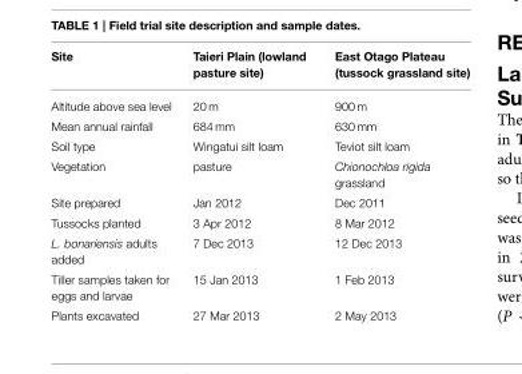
<table><thead><tr><td>Site</td><td>Taieri Plain (lowland pasture site)</td><td>East Otago Plateau (tussock grassland site)</td></tr></thead><tbody><tr><td>Altitude above sea level</td><td>20 m</td><td>900 m</td></tr><tr><td>Mean annual rainfall</td><td>684 mm</td><td>630 mm</td></tr><tr><td>Soil type</td><td>Wingatui silt loam</td><td>Teviot silt loam</td></tr><tr><td>Vegetation</td><td>pasture</td><td>Chionochloa rigida grassland</td></tr><tr><td>Site prepared</td><td>Jan 2012</td><td>Dec 2011</td></tr><tr><td>Tussocks planted</td><td>3 Apr 2012</td><td>8 Mar 2012</td></tr><tr><td>L. bonariensis adults added</td><td>7 Dec 2013</td><td>12 Dec 2013</td></tr><tr><td>Tiller samples taken for eggs and larvae</td><td>15 Jan 2013</td><td>1 Feb 2013</td></tr><tr><td>Plants excavated</td><td>27 Mar 2013</td><td>2 May 2013</td></tr></tbody></table>